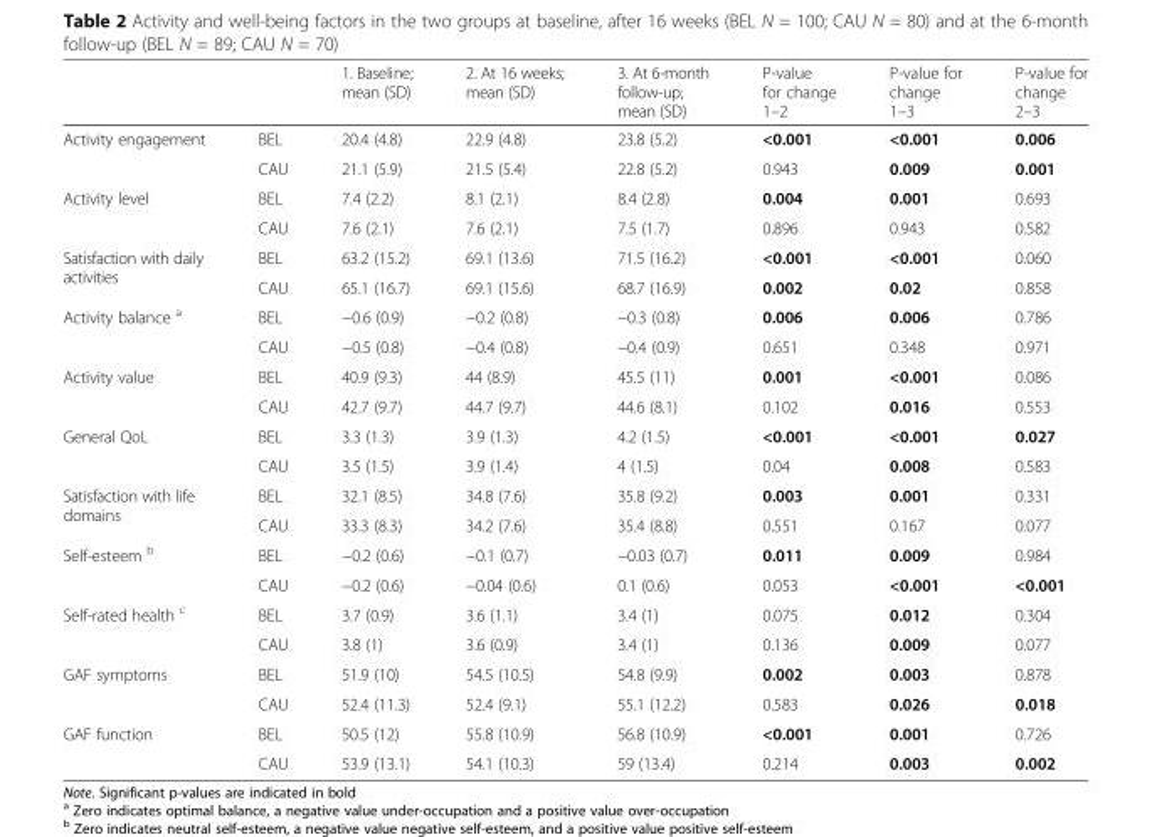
<table><thead><tr><td></td><td></td><td>1. Baseline; mean (SD)</td><td>2. At 16 weeks; mean (SD)</td><td>3. At 6-month follow-up; mean (SD)</td><td>P-value for change 1–2</td><td>P-value for change 1–3</td><td>P-value for change 2–3</td></tr></thead><tbody><tr><td rowspan="2">Activity engagement</td><td>BEL</td><td>20.4 (4.8)</td><td>22.9 (4.8)</td><td>23.8 (5.2)</td><td>&lt;0.001</td><td>&lt;0.001</td><td>0.006</td></tr><tr><td>CAU</td><td>21.1 (5.9)</td><td>21.5 (5.4)</td><td>22.8 (5.2)</td><td>0.943</td><td>0.009</td><td>0.001</td></tr><tr><td rowspan="2">Activity level</td><td>BEL</td><td>7.4 (2.2)</td><td>8.1 (2.1)</td><td>8.4 (2.8)</td><td>0.004</td><td>0.001</td><td>0.693</td></tr><tr><td>CAU</td><td>7.6 (2.1)</td><td>7.6 (2.1)</td><td>7.5 (1.7)</td><td>0.896</td><td>0.943</td><td>0.582</td></tr><tr><td rowspan="2">Satisfaction with daily activities</td><td>BEL</td><td>63.2 (15.2)</td><td>69.1 (13.6)</td><td>71.5 (16.2)</td><td>&lt;0.001</td><td>&lt;0.001</td><td>0.060</td></tr><tr><td>CAU</td><td>65.1 (16.7)</td><td>69.1 (15.6)</td><td>68.7 (16.9)</td><td>0.002</td><td>0.02</td><td>0.858</td></tr><tr><td rowspan="2">Activity balance <sup>a</sup></td><td>BEL</td><td>−0.6 (0.9)</td><td>−0.2 (0.8)</td><td>−0.3 (0.8)</td><td>0.006</td><td>0.006</td><td>0.786</td></tr><tr><td>CAU</td><td>−0.5 (0.8)</td><td>−0.4 (0.8)</td><td>−0.4 (0.9)</td><td>0.651</td><td>0.348</td><td>0.971</td></tr><tr><td rowspan="2">Activity value</td><td>BEL</td><td>40.9 (9.3)</td><td>44 (8.9)</td><td>45.5 (11)</td><td>0.001</td><td>&lt;0.001</td><td>0.086</td></tr><tr><td>CAU</td><td>42.7 (9.7)</td><td>44.7 (9.7)</td><td>44.6 (8.1)</td><td>0.102</td><td>0.016</td><td>0.553</td></tr><tr><td rowspan="2">General QoL</td><td>BEL</td><td>3.3 (1.3)</td><td>3.9 (1.3)</td><td>4.2 (1.5)</td><td>&lt;0.001</td><td>&lt;0.001</td><td>0.027</td></tr><tr><td>CAU</td><td>3.5 (1.5)</td><td>3.9 (1.4)</td><td>4 (1.5)</td><td>0.04</td><td>0.008</td><td>0.583</td></tr><tr><td rowspan="2">Satisfaction with life domains</td><td>BEL</td><td>32.1 (8.5)</td><td>34.8 (7.6)</td><td>35.8 (9.2)</td><td>0.003</td><td>0.001</td><td>0.331</td></tr><tr><td>CAU</td><td>33.3 (8.3)</td><td>34.2 (7.6)</td><td>35.4 (8.8)</td><td>0.551</td><td>0.167</td><td>0.077</td></tr><tr><td rowspan="2">Self-esteem <sup>b</sup></td><td>BEL</td><td>−0.2 (0.6)</td><td>−0.1 (0.7)</td><td>−0.03 (0.7)</td><td>0.011</td><td>0.009</td><td>0.984</td></tr><tr><td>CAU</td><td>−0.2 (0.6)</td><td>−0.04 (0.6)</td><td>0.1 (0.6)</td><td>0.053</td><td>&lt;0.001</td><td>&lt;0.001</td></tr><tr><td rowspan="2">Self-rated health <sup>c</sup></td><td>BEL</td><td>3.7 (0.9)</td><td>3.6 (1.1)</td><td>3.4 (1)</td><td>0.075</td><td>0.012</td><td>0.304</td></tr><tr><td>CAU</td><td>3.8 (1)</td><td>3.6 (0.9)</td><td>3.4 (1)</td><td>0.136</td><td>0.009</td><td>0.077</td></tr><tr><td rowspan="2">GAF symptoms</td><td>BEL</td><td>51.9 (10)</td><td>54.5 (10.5)</td><td>54.8 (9.9)</td><td>0.002</td><td>0.003</td><td>0.878</td></tr><tr><td>CAU</td><td>52.4 (11.3)</td><td>52.4 (9.1)</td><td>55.1 (12.2)</td><td>0.583</td><td>0.026</td><td>0.018</td></tr><tr><td rowspan="2">GAF function</td><td>BEL</td><td>50.5 (12)</td><td>55.8 (10.9)</td><td>56.8 (10.9)</td><td>&lt;0.001</td><td>0.001</td><td>0.726</td></tr><tr><td>CAU</td><td>53.9 (13.1)</td><td>54.1 (10.3)</td><td>59 (13.4)</td><td>0.214</td><td>0.003</td><td>0.002</td></tr></tbody></table>